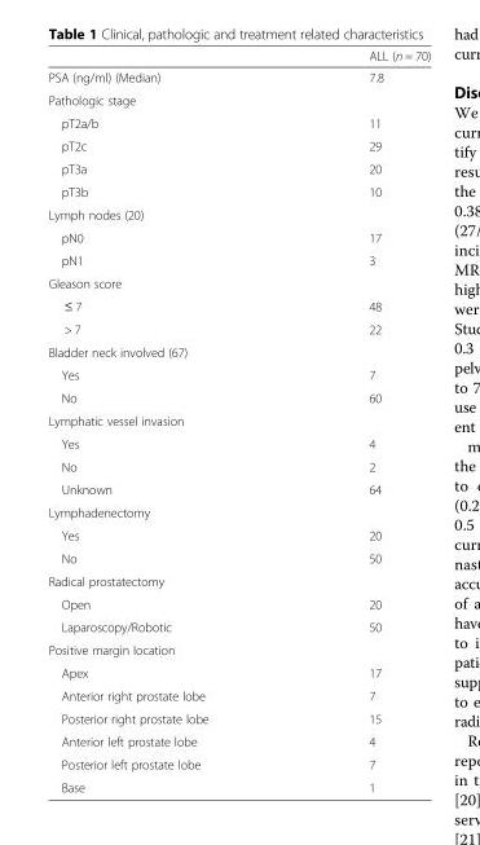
<table><thead><tr><td></td><td>ALL (n = 70)</td></tr></thead><tbody><tr><td>PSA (ng/ml) (Median)</td><td>7.8</td></tr><tr><td colspan="2">Pathologic stage</td></tr><tr><td>pT2a/b</td><td>11</td></tr><tr><td>pT2c</td><td>29</td></tr><tr><td>pT3a</td><td>20</td></tr><tr><td>pT3b</td><td>10</td></tr><tr><td colspan="2">Lymph nodes (20)</td></tr><tr><td>pN0</td><td>17</td></tr><tr><td>pN1</td><td>3</td></tr><tr><td colspan="2">Gleason score</td></tr><tr><td>≤ 7</td><td>48</td></tr><tr><td>&gt; 7</td><td>22</td></tr><tr><td colspan="2">Bladder neck involved (67)</td></tr><tr><td>Yes</td><td>7</td></tr><tr><td>No</td><td>60</td></tr><tr><td colspan="2">Lymphatic vessel invasion</td></tr><tr><td>Yes</td><td>4</td></tr><tr><td>No</td><td>2</td></tr><tr><td>Unknown</td><td>64</td></tr><tr><td colspan="2">Lymphadenectomy</td></tr><tr><td>Yes</td><td>20</td></tr><tr><td>No</td><td>50</td></tr><tr><td colspan="2">Radical prostatectomy</td></tr><tr><td>Open</td><td>20</td></tr><tr><td>Laparoscopy/Robotic</td><td>50</td></tr><tr><td colspan="2">Positive margin location</td></tr><tr><td>Apex</td><td>17</td></tr><tr><td>Anterior right prostate lobe</td><td>7</td></tr><tr><td>Posterior right prostate lobe</td><td>15</td></tr><tr><td>Anterior left prostate lobe</td><td>4</td></tr><tr><td>Posterior left prostate lobe</td><td>7</td></tr><tr><td>Base</td><td>1</td></tr></tbody></table>